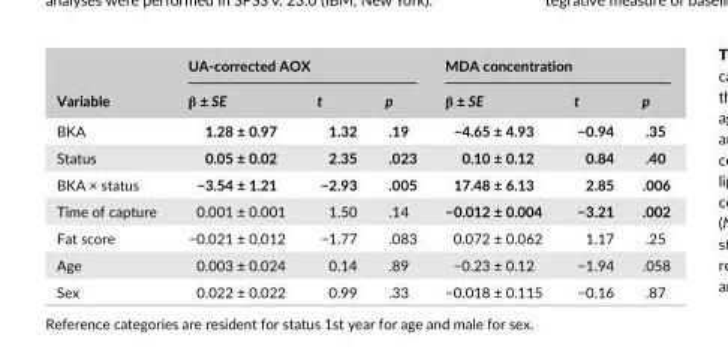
<table><thead><tr><td rowspan="2">Variable</td><td colspan="3">UA- corrected AOX</td><td colspan="3">MDA concentration</td></tr><tr><td>β ± SE</td><td>t</td><td>p</td><td>β ± SE</td><td>t</td><td>p</td></tr></thead><tbody><tr><td>BKA</td><td>1.28 ± 0.97</td><td>1.32</td><td>.19</td><td>−4.65 ± 4.93</td><td>−0.94</td><td>.35</td></tr><tr><td>Status</td><td>0.05 ± 0.02</td><td>2.35</td><td>.023</td><td>0.10 ± 0.12</td><td>0.84</td><td>.40</td></tr><tr><td>BKA × status</td><td>−3.54 ± 1.21</td><td>−2.93</td><td>.005</td><td>17.48 ± 6.13</td><td>2.85</td><td>.006</td></tr><tr><td>Time of capture</td><td>0.001 ± 0.001</td><td>1.50</td><td>.14</td><td>−0.012 ± 0.004</td><td>−3.21</td><td>.002</td></tr><tr><td>Fat score</td><td>−0.021 ± 0.012</td><td>−1.77</td><td>.083</td><td>0.072 ± 0.062</td><td>1.17</td><td>.25</td></tr><tr><td>Age</td><td>0.003 ± 0.024</td><td>0.14</td><td>.89</td><td>−0.23 ± 0.12</td><td>−1.94</td><td>.058</td></tr><tr><td>Sex</td><td>0.022 ± 0.022</td><td>0.99</td><td>.33</td><td>−0.018 ± 0.115</td><td>−0.16</td><td>.87</td></tr></tbody></table>